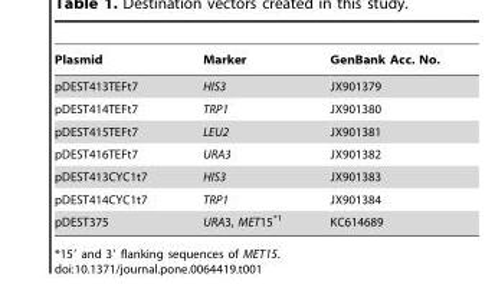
<table><thead><tr><td>Plasmid</td><td>Marker</td><td>GenBank Acc. No.</td></tr></thead><tbody><tr><td>pDEST413TEFt7</td><td>HIS3</td><td>JX901379</td></tr><tr><td>pDEST414TEFt7</td><td>TRP1</td><td>JX901380</td></tr><tr><td>pDEST415TEFt7</td><td>LEU2</td><td>JX901381</td></tr><tr><td>pDEST416TEFt7</td><td>URA3</td><td>JX901382</td></tr><tr><td>pDEST413CYC1t7</td><td>HIS3</td><td>JX901383</td></tr><tr><td>pDEST414CYC1t7</td><td>TRP1</td><td>JX901384</td></tr><tr><td>pDEST375</td><td>URA3, MET15*1</td><td>KC614689</td></tr></tbody></table>